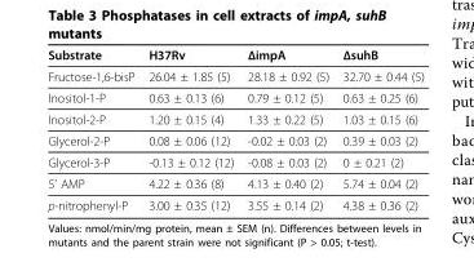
<table><thead><tr><td>Substrate</td><td>H37Rv</td><td>ΔimpA</td><td>ΔsuhB</td></tr></thead><tbody><tr><td>Fructose-1,6-bisP</td><td>26.04 ± 1.85 (5)</td><td>28.18 ± 0.92 (5)</td><td>32.70 ± 0.44 (5)</td></tr><tr><td>Inositol-1-P</td><td>0.63 ± 0.13 (6)</td><td>0.79 ± 0.12 (5)</td><td>0.63 ± 0.25 (6)</td></tr><tr><td>Inositol-2-P</td><td>1.20 ± 0.15 (4)</td><td>1.33 ± 0.22 (5)</td><td>1.03 ± 0.15 (6)</td></tr><tr><td>Glycerol-2-P</td><td>0.08 ± 0.06 (12)</td><td>-0.02 ± 0.03 (2)</td><td>0.39 ± 0.03 (2)</td></tr><tr><td>Glycerol-3-P</td><td>-0.13 ± 0.12 (12)</td><td>-0.08 ± 0.03 (2)</td><td>0 ± 0.21 (2)</td></tr><tr><td>5’ AMP</td><td>4.22 ± 0.36 (8)</td><td>4.13 ± 0.40 (2)</td><td>5.74 ± 0.04 (2)</td></tr><tr><td>p-nitrophenyl-P</td><td>3.00 ± 0.35 (12)</td><td>3.55 ± 0.14 (2)</td><td>4.38 ± 0.36 (2)</td></tr></tbody></table>